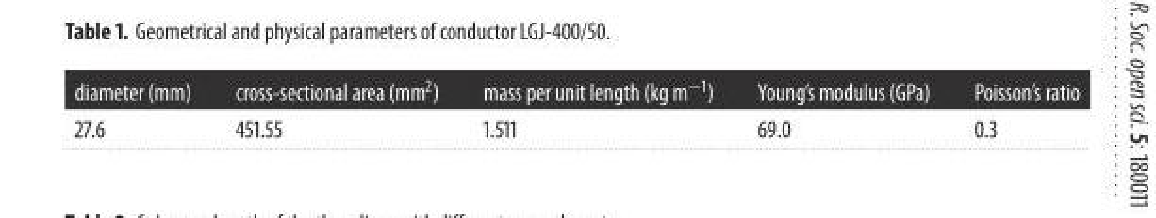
<table><thead><tr><td>diameter (mm)</td><td>cross-sectional area (mm<sup>2</sup>)</td><td>mass per unit length (kg m<sup>−1</sup>)</td><td>Young’s modulus (GPa)</td><td>Poisson’s ratio</td></tr></thead><tbody><tr><td>27.6</td><td>451.55</td><td>1.511</td><td>69.0</td><td>0.3</td></tr></tbody></table>